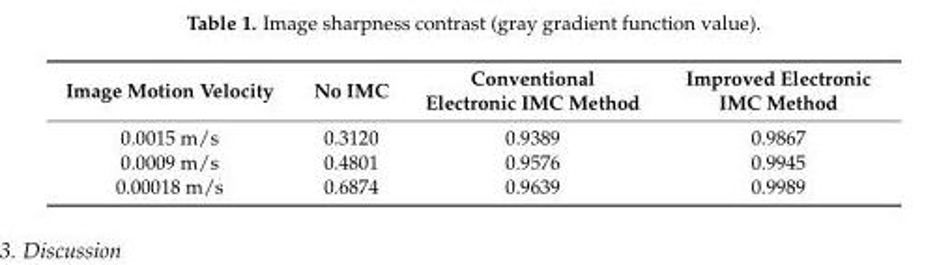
<table><thead><tr><td>Image Motion Velocity</td><td>No IMC</td><td>Conventional Electronic IMC Method</td><td>Improved Electronic IMC Method</td></tr></thead><tbody><tr><td>0.0015 m/s</td><td>0.3120</td><td>0.9389</td><td>0.9867</td></tr><tr><td>0.0009 m/s</td><td>0.4801</td><td>0.9576</td><td>0.9945</td></tr><tr><td>0.00018 m/s</td><td>0.6874</td><td>0.9639</td><td>0.9989</td></tr></tbody></table>